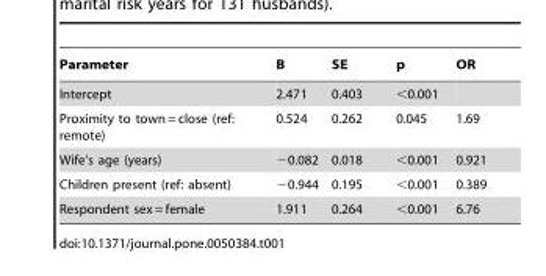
<table><thead><tr><td>Parameter</td><td>B</td><td>SE</td><td>p</td><td>OR</td></tr></thead><tbody><tr><td>Intercept</td><td>2.471</td><td>0.403</td><td>&lt;0.001</td><td></td></tr><tr><td>Proximity to town = close (ref: remote)</td><td>0.524</td><td>0.262</td><td>0.045</td><td>1.69</td></tr><tr><td>Wife’s age (years)</td><td>−0.082</td><td>0.018</td><td>&lt;0.001</td><td>0.921</td></tr><tr><td>Children present (ref: absent)</td><td>−0.944</td><td>0.195</td><td>&lt;0.001</td><td>0.389</td></tr><tr><td>Respondent sex = female</td><td>1.911</td><td>0.264</td><td>&lt;0.001</td><td>6.76</td></tr></tbody></table>